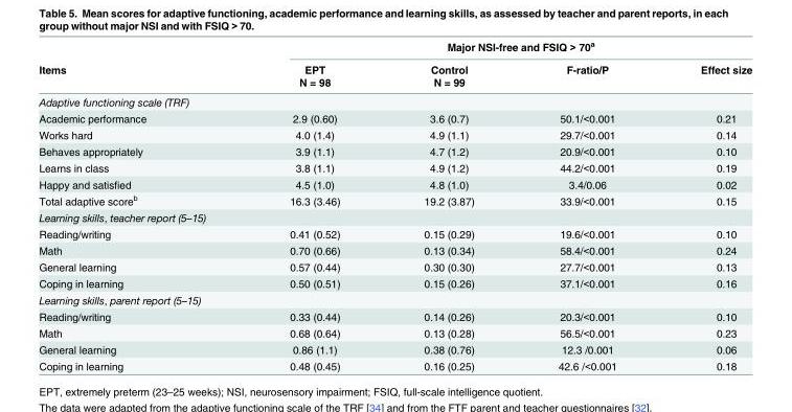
<table><thead><tr><td rowspan="3">Items</td><td colspan="4">Major NSI-free and FSIQ &gt; 70<sup>a</sup></td></tr><tr><td rowspan="2">EPT N = 98</td><td rowspan="2">Control N = 99</td><td rowspan="2">F-ratio/P</td><td rowspan="2">Effect size</td></tr><tr></tr></thead><tbody><tr><td colspan="5">Adaptive functioning scale (TRF)</td></tr><tr><td>Academic performance</td><td>2.9 (0.60)</td><td>3.6 (0.7)</td><td>50.1/&lt;0.001</td><td>0.21</td></tr><tr><td>Works hard</td><td>4.0 (1.4)</td><td>4.9 (1.1)</td><td>29.7/&lt;0.001</td><td>0.14</td></tr><tr><td>Behaves appropriately</td><td>3.9 (1.1)</td><td>4.7 (1.2)</td><td>20.9/&lt;0.001</td><td>0.10</td></tr><tr><td>Learns in class</td><td>3.8 (1.1)</td><td>4.9 (1.2)</td><td>44.2/&lt;0.001</td><td>0.19</td></tr><tr><td>Happy and satisfied</td><td>4.5 (1.0)</td><td>4.8 (1.0)</td><td>3.4/0.06</td><td>0.02</td></tr><tr><td>Total adaptive score<sup>b</sup></td><td>16.3 (3.46)</td><td>19.2 (3.87)</td><td>33.9/&lt;0.001</td><td>0.15</td></tr><tr><td colspan="5">Learning skills, teacher report (5–15)</td></tr><tr><td>Reading/writing</td><td>0.41 (0.52)</td><td>0.15 (0.29)</td><td>19.6/&lt;0.001</td><td>0.10</td></tr><tr><td>Math</td><td>0.70 (0.66)</td><td>0.13 (0.34)</td><td>58.4/&lt;0.001</td><td>0.24</td></tr><tr><td>General learning</td><td>0.57 (0.44)</td><td>0.30 (0.30)</td><td>27.7/&lt;0.001</td><td>0.13</td></tr><tr><td>Coping in learning</td><td>0.50 (0.51)</td><td>0.15 (0.26)</td><td>37.1/&lt;0.001</td><td>0.16</td></tr><tr><td colspan="5">Learning skills, parent report (5–15)</td></tr><tr><td>Reading/writing</td><td>0.33 (0.44)</td><td>0.14 (0.26)</td><td>20.3/&lt;0.001</td><td>0.10</td></tr><tr><td>Math</td><td>0.68 (0.64)</td><td>0.13 (0.28)</td><td>56.5/&lt;0.001</td><td>0.23</td></tr><tr><td>General learning</td><td>0.86 (1.1)</td><td>0.38 (0.76)</td><td>12.3 /0.001</td><td>0.06</td></tr><tr><td>Coping in learning</td><td>0.48 (0.45)</td><td>0.16 (0.25)</td><td>42.6 /&lt;0.001</td><td>0.18</td></tr></tbody></table>